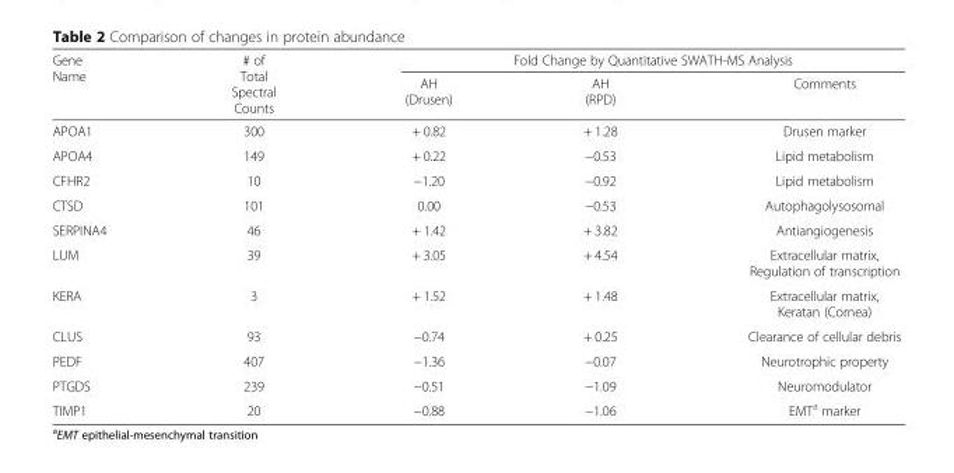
<table><thead><tr><td rowspan="2">Gene Name</td><td rowspan="2"># of Total Spectral Counts</td><td colspan="3">Fold Change by Quantitative SWATH-MS Analysis</td></tr><tr><td>AH (Drusen)</td><td>AH (RPD)</td><td>Comments</td></tr></thead><tbody><tr><td>APOA1</td><td>300</td><td>+ 0.82</td><td>+ 1.28</td><td>Drusen marker</td></tr><tr><td>APOA4</td><td>149</td><td>+ 0.22</td><td>−0.53</td><td>Lipid metabolism</td></tr><tr><td>CFHR2</td><td>10</td><td>−1.20</td><td>−0.92</td><td>Lipid metabolism</td></tr><tr><td>CTSD</td><td>101</td><td>0.00</td><td>−0.53</td><td>Autophagolysosomal</td></tr><tr><td>SERPINA4</td><td>46</td><td>+ 1.42</td><td>+ 3.82</td><td>Antiangiogenesis</td></tr><tr><td>LUM</td><td>39</td><td>+ 3.05</td><td>+ 4.54</td><td>Extracellular matrix, Regulation of transcription</td></tr><tr><td>KERA</td><td>3</td><td>+ 1.52</td><td>+ 1.48</td><td>Extracellular matrix, Keratan (Cornea)</td></tr><tr><td>CLUS</td><td>93</td><td>−0.74</td><td>+ 0.25</td><td>Clearance of cellular debris</td></tr><tr><td>PEDF</td><td>407</td><td>−1.36</td><td>−0.07</td><td>Neurotrophic property</td></tr><tr><td>PTGDS</td><td>239</td><td>−0.51</td><td>−1.09</td><td>Neuromodulator</td></tr><tr><td>TIMP1</td><td>20</td><td>−0.88</td><td>−1.06</td><td>EMT<sup>a</sup> marker</td></tr></tbody></table>